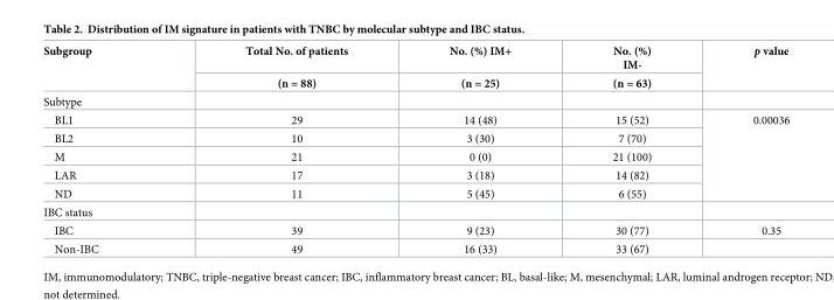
<table><thead><tr><td rowspan="2">Subgroup</td><td rowspan="2">Total No. of patients (n = 88)</td><td rowspan="2">No. (%) IM+ (n = 25)</td><td rowspan="2">No. (%) IM- (n = 63)</td><td rowspan="2">p value</td></tr><tr></tr></thead><tbody><tr><td colspan="5">Subtype</td></tr><tr><td>BL1</td><td>29</td><td>14 (48)</td><td>15 (52)</td><td rowspan="5">0.00036</td></tr><tr><td>BL2</td><td>10</td><td>3 (30)</td><td>7 (70)</td></tr><tr><td>M</td><td>21</td><td>0 (0)</td><td>21 (100)</td></tr><tr><td>LAR</td><td>17</td><td>3 (18)</td><td>14 (82)</td></tr><tr><td>ND</td><td>11</td><td>5 (45)</td><td>6 (55)</td></tr><tr><td colspan="5">IBC status</td></tr><tr><td>IBC</td><td>39</td><td>9 (23)</td><td>30 (77)</td><td>0.35</td></tr><tr><td>Non-IBC</td><td>49</td><td>16 (33)</td><td>33 (67)</td><td></td></tr></tbody></table>